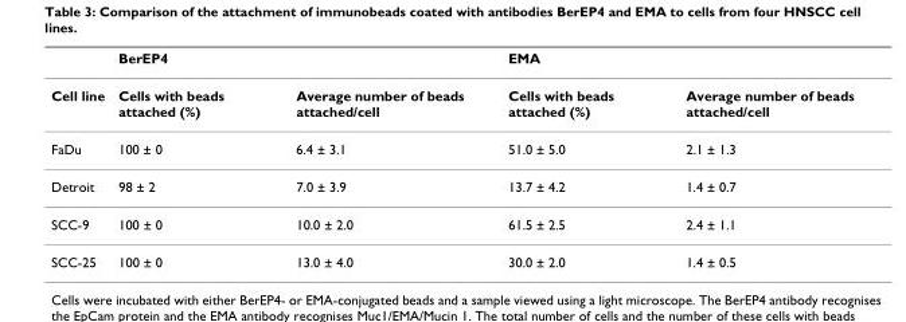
<table><thead><tr><td rowspan="2">Cell line</td><td colspan="2">BerEP4</td><td colspan="2">EMA</td></tr><tr><td>Cells with beads attached (%)</td><td>Average number of beads attached/cell</td><td>Cells with beads attached (%)</td><td>Average number of beads attached/cell</td></tr></thead><tbody><tr><td>FaDu</td><td>100 ± 0</td><td>6.4 ± 3.1</td><td>51.0 ± 5.0</td><td>2.1 ± 1.3</td></tr><tr><td>Detroit</td><td>98 ± 2</td><td>7.0 ± 3.9</td><td>13.7 ± 4.2</td><td>1.4 ± 0.7</td></tr><tr><td>SCC-9</td><td>100 ± 0</td><td>10.0 ± 2.0</td><td>61.5 ± 2.5</td><td>2.4 ± 1.1</td></tr><tr><td>SCC-25</td><td>100 ± 0</td><td>13.0 ± 4.0</td><td>30.0 ± 2.0</td><td>1.4 ± 0.5</td></tr></tbody></table>